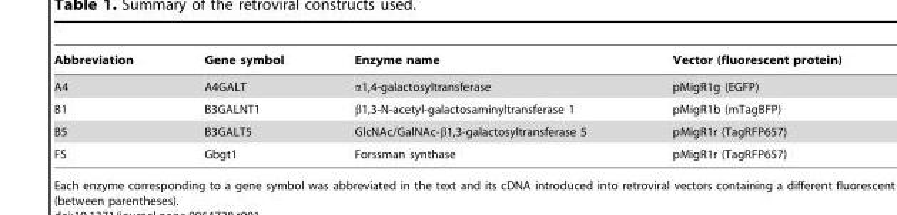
<table><thead><tr><td>Abbreviation</td><td>Gene symbol</td><td>Enzyme name</td><td>Vector (fluorescent protein)</td></tr></thead><tbody><tr><td>A4</td><td>A4GALT</td><td>α1,4-galactosyltransferase</td><td>pMigR1g (EGFP)</td></tr><tr><td>B1</td><td>B3GALNT1</td><td>β1,3-N-acetyl-galactosaminyltransferase 1</td><td>pMigR1b (mTagBFP)</td></tr><tr><td>B5</td><td>B3GALT5</td><td>GlcNAc/GalNAc-β1,3-galactosyltransferase 5</td><td>pMigR1r (TagRFP657)</td></tr><tr><td>FS</td><td>Gbgt1</td><td>Forssman synthase</td><td>pMigR1r (TagRFP657)</td></tr></tbody></table>